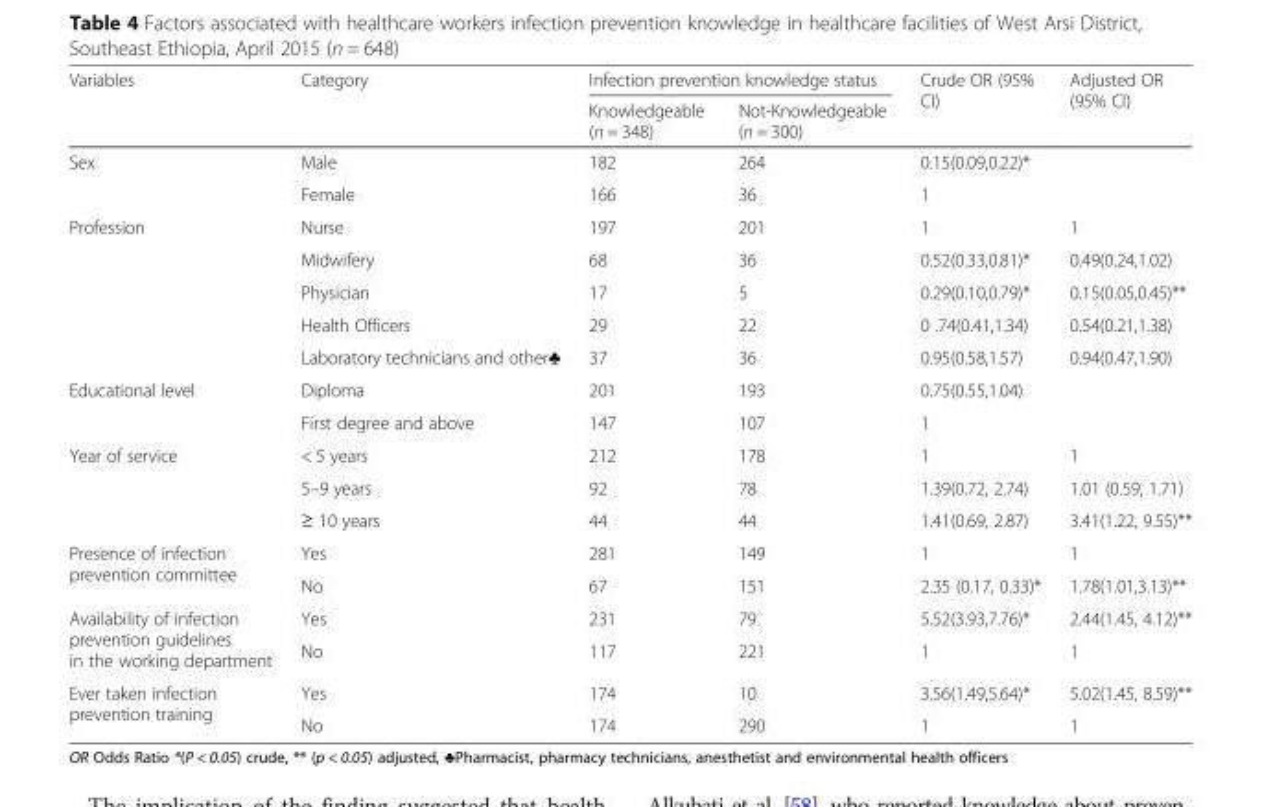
<table><thead><tr><td rowspan="2">Variables</td><td rowspan="2">Category</td><td colspan="2">Infection prevention knowledge status</td><td rowspan="2">Crude OR (95% CI)</td><td rowspan="2">Adjusted OR (95% CI)</td></tr><tr><td>Knowledgeable (n = 348)</td><td>Not-Knowledgeable (n = 300)</td></tr></thead><tbody><tr><td rowspan="2">Sex</td><td>Male</td><td>182</td><td>264</td><td>0.15(0.09,0.22)*</td><td></td></tr><tr><td>Female</td><td>166</td><td>36</td><td>1</td><td></td></tr><tr><td rowspan="5">Profession</td><td>Nurse</td><td>197</td><td>201</td><td>1</td><td>1</td></tr><tr><td>Midwifery</td><td>68</td><td>36</td><td>0.52(0.33,0.81)*</td><td>0.49(0.24,1.02)</td></tr><tr><td>Physician</td><td>17</td><td>5</td><td>0.29(0.10,0.79)*</td><td>0.15(0.05,0.45)**</td></tr><tr><td>Health Officers</td><td>29</td><td>22</td><td>0 .74(0.41,1.34)</td><td>0.54(0.21,1.38)</td></tr><tr><td>Laboratory technicians and other♣</td><td>37</td><td>36</td><td>0.95(0.58,1.57)</td><td>0.94(0.47,1.90)</td></tr><tr><td rowspan="2">Educational level</td><td>Diploma</td><td>201</td><td>193</td><td>0.75(0.55,1.04)</td><td></td></tr><tr><td>First degree and above</td><td>147</td><td>107</td><td>1</td><td></td></tr><tr><td rowspan="3">Year of service</td><td>&lt; 5 years</td><td>212</td><td>178</td><td>1</td><td>1</td></tr><tr><td>5–9 years</td><td>92</td><td>78</td><td>1.39(0.72, 2.74)</td><td>1.01 (0.59, 1.71)</td></tr><tr><td>≥ 10 years</td><td>44</td><td>44</td><td>1.41(0.69, 2.87)</td><td>3.41(1.22, 9.55)**</td></tr><tr><td rowspan="2">Presence of infection prevention committee</td><td>Yes</td><td>281</td><td>149</td><td>1</td><td>1</td></tr><tr><td>No</td><td>67</td><td>151</td><td>2.35 (0.17, 0.33)*</td><td>1.78(1.01,3.13)**</td></tr><tr><td rowspan="2">Availability of infection prevention guidelines in the working department</td><td>Yes</td><td>231</td><td>79</td><td>5.52(3.93,7.76)*</td><td>2.44(1.45, 4.12)**</td></tr><tr><td>No</td><td>117</td><td>221</td><td>1</td><td>1</td></tr><tr><td rowspan="2">Ever taken infection prevention training</td><td>Yes</td><td>174</td><td>10</td><td>3.56(1.49,5.64)*</td><td>5.02(1.45, 8.59)**</td></tr><tr><td>No</td><td>174</td><td>290</td><td>1</td><td>1</td></tr></tbody></table>